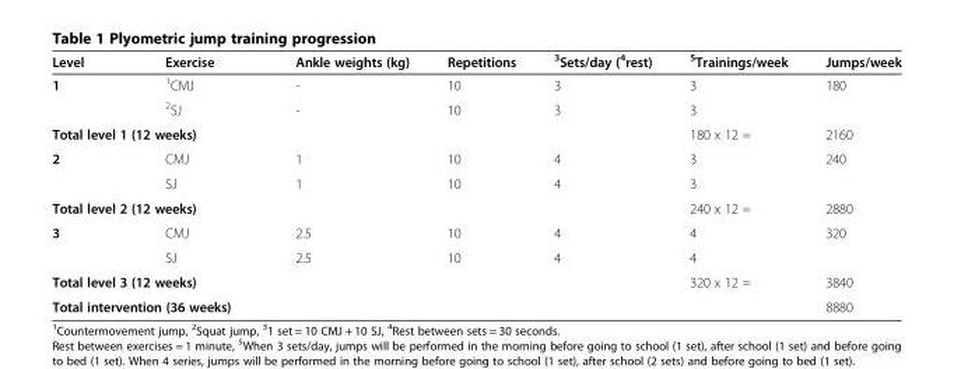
<table><thead><tr><td>Level</td><td>Exercise</td><td>Ankle weights (kg)</td><td>Repetitions</td><td><sup>3</sup>Sets/day (<sup>4</sup>rest)</td><td><sup>5</sup>Trainings/week</td><td>Jumps/week</td></tr></thead><tbody><tr><td rowspan="2">1</td><td><sup>1</sup>CMJ</td><td>-</td><td>10</td><td>3</td><td>3</td><td rowspan="2">180</td></tr><tr><td><sup>2</sup>SJ</td><td>-</td><td>10</td><td>3</td><td>3</td></tr><tr><td colspan="2">Total level 1 (12 weeks)</td><td></td><td></td><td></td><td>180 x 12 =</td><td>2160</td></tr><tr><td rowspan="2">2</td><td>CMJ</td><td>1</td><td>10</td><td>4</td><td>3</td><td rowspan="2">240</td></tr><tr><td>SJ</td><td>1</td><td>10</td><td>4</td><td>3</td></tr><tr><td colspan="2">Total level 2 (12 weeks)</td><td></td><td></td><td></td><td>240 x 12 =</td><td>2880</td></tr><tr><td rowspan="2">3</td><td>CMJ</td><td>2.5</td><td>10</td><td>4</td><td>4</td><td rowspan="2">320</td></tr><tr><td>SJ</td><td>2.5</td><td>10</td><td>4</td><td>4</td></tr><tr><td colspan="2">Total level 3 (12 weeks)</td><td></td><td></td><td></td><td>320 x 12 =</td><td>3840</td></tr><tr><td colspan="2">Total intervention (36 weeks)</td><td></td><td></td><td></td><td></td><td>8880</td></tr></tbody></table>